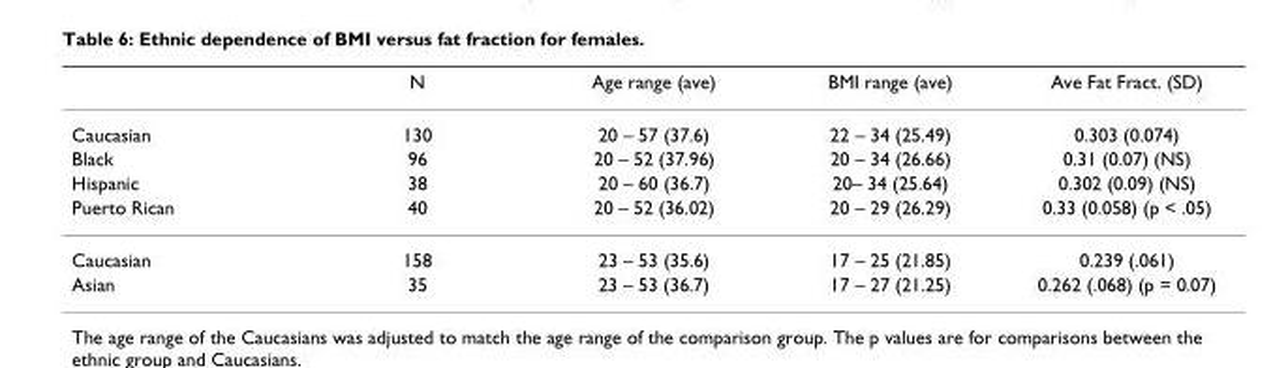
<table><thead><tr><td></td><td>N</td><td>Age range (ave)</td><td>BMI range (ave)</td><td>Ave Fat Fract. (SD)</td></tr></thead><tbody><tr><td>Caucasian</td><td>130</td><td>20 – 57 (37.6)</td><td>22 – 34 (25.49)</td><td>0.303 (0.074)</td></tr><tr><td>Black</td><td>96</td><td>20 – 52 (37.96)</td><td>20 – 34 (26.66)</td><td>0.31 (0.07) (NS)</td></tr><tr><td>Hispanic</td><td>38</td><td>20 – 60 (36.7)</td><td>20– 34 (25.64)</td><td>0.302 (0.09) (NS)</td></tr><tr><td>Puerto Rican</td><td>40</td><td>20 – 52 (36.02)</td><td>20 – 29 (26.29)</td><td>0.33 (0.058) (p &lt; .05)</td></tr><tr><td>Caucasian</td><td>158</td><td>23 – 53 (35.6)</td><td>17 – 25 (21.85)</td><td>0.239 (.061)</td></tr><tr><td>Asian</td><td>35</td><td>23 – 53 (36.7)</td><td>17 – 27 (21.25)</td><td>0.262 (.068) (p = 0.07)</td></tr></tbody></table>